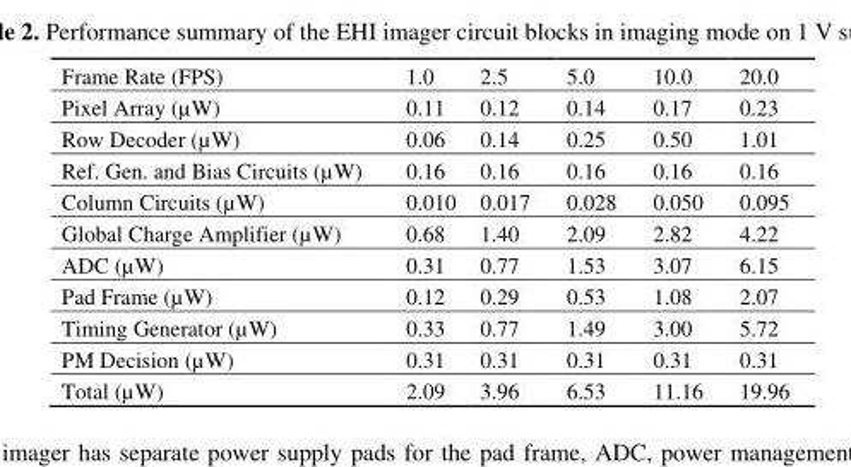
<table><tbody><tr><td>Frame Rate (FPS)</td><td>1.0</td><td>2.5</td><td>5.0</td><td>10.0</td><td>20.0</td></tr><tr><td>Pixel Array (µW)</td><td>0.11</td><td>0.12</td><td>0.14</td><td>0.17</td><td>0.23</td></tr><tr><td>Row Decoder (µW)</td><td>0.06</td><td>0.14</td><td>0.25</td><td>0.50</td><td>1.01</td></tr><tr><td>Ref. Gen. and Bias Circuits (µW)</td><td>0.16</td><td>0.16</td><td>0.16</td><td>0.16</td><td>0.16</td></tr><tr><td>Column Circuits (µW)</td><td>0.010</td><td>0.017</td><td>0.028</td><td>0.050</td><td>0.095</td></tr><tr><td>Global Charge Amplifier (µW)</td><td>0.68</td><td>1.40</td><td>2.09</td><td>2.82</td><td>4.22</td></tr><tr><td>ADC (µW)</td><td>0.31</td><td>0.77</td><td>1.53</td><td>3.07</td><td>6.15</td></tr><tr><td>Pad Frame (µW)</td><td>0.12</td><td>0.29</td><td>0.53</td><td>1.08</td><td>2.07</td></tr><tr><td>Timing Generator (µW)</td><td>0.33</td><td>0.77</td><td>1.49</td><td>3.00</td><td>5.72</td></tr><tr><td>PM Decision (µW)</td><td>0.31</td><td>0.31</td><td>0.31</td><td>0.31</td><td>0.31</td></tr><tr><td>Total (µW)</td><td>2.09</td><td>3.96</td><td>6.53</td><td>11.16</td><td>19.96</td></tr></tbody></table>